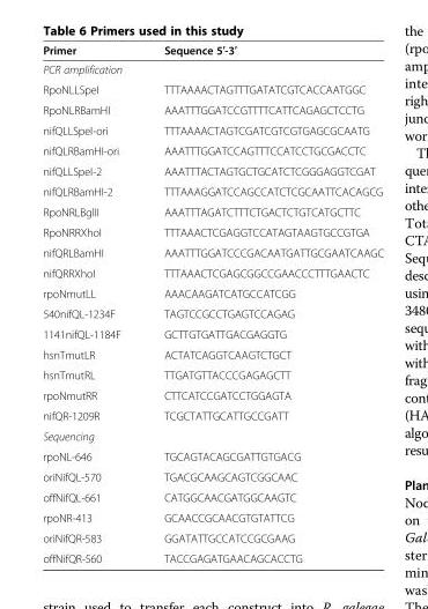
<table><thead><tr><td>Primer</td><td>Sequence 5′-3′</td></tr></thead><tbody><tr><td colspan="2">PCR amplification</td></tr><tr><td>RpoNLLSpeI</td><td>TTTAAAACTAGTTTGATATCGTCACCAATGGC</td></tr><tr><td>RpoNLRBamHI</td><td>AAATTTGGATCCGTTTTCATTCAGAGCTCCTG</td></tr><tr><td>nifQLLSpeI-ori</td><td>TTTAAAACTAGTCGATCGTCGTGAGCGCAATG</td></tr><tr><td>nifQLRBamHI-ori</td><td>AAATTTGGATCCAGTTTCCATCCTGCGACCTC</td></tr><tr><td>nifQLLSpeI-2</td><td>AAATTTACTAGTGCTGCATCTCGGGAGGTCGAT</td></tr><tr><td>nifQLRBamHI-2</td><td>TTTAAAGGATCCAGCCATCTCGCAATTCACAGCG</td></tr><tr><td>RpoNRLBglII</td><td>AAATTTAGATCTTTCTGACTCTGTCATGCTTC</td></tr><tr><td>RpoNRRXhoI</td><td>TTTAAACTCGAGGTCCATAGTAAGTGCCGTGA</td></tr><tr><td>nifQRLBamHI</td><td>AAATTTGGATCCCGACAATGATTGCGAATCAAGC</td></tr><tr><td>nifQRRXhoI</td><td>TTTAAACTCGAGCGGCCGAACCCTTTGAACTC</td></tr><tr><td>rpoNmutLL</td><td>AAACAAGATCATGCCATCGG</td></tr><tr><td>540nifQL-1234F</td><td>TAGTCCGCCTGAGTCCAGAG</td></tr><tr><td>1141nifQL-1184F</td><td>GCTTGTGATTGACGAGGTG</td></tr><tr><td>hsnTmutLR</td><td>ACTATCAGGTCAAGTCTGCT</td></tr><tr><td>hsnTmutRL</td><td>TTGATGTTACCCGAGAGCTT</td></tr><tr><td>rpoNmutRR</td><td>CTTCATCCGATCCTGGAGTA</td></tr><tr><td>nifQR-1209R</td><td>TCGCTATTGCATTGCCGATT</td></tr><tr><td colspan="2">Sequencing</td></tr><tr><td>rpoNL-646</td><td>TGCAGTACAGCGATTGTGACG</td></tr><tr><td>oriNifQL-570</td><td>TGACGCAAGCAGTCGGCAAC</td></tr><tr><td>offNifQL-661</td><td>CATGGCAACGATGGCAAGTC</td></tr><tr><td>rpoNR-413</td><td>GCAACCGCAACGTGTATTCG</td></tr><tr><td>oriNifQR-583</td><td>GGATATTGCCATCCGCGAAG</td></tr><tr><td>offNifQR-560</td><td>TACCGAGATGAACAGCACCTG</td></tr></tbody></table>